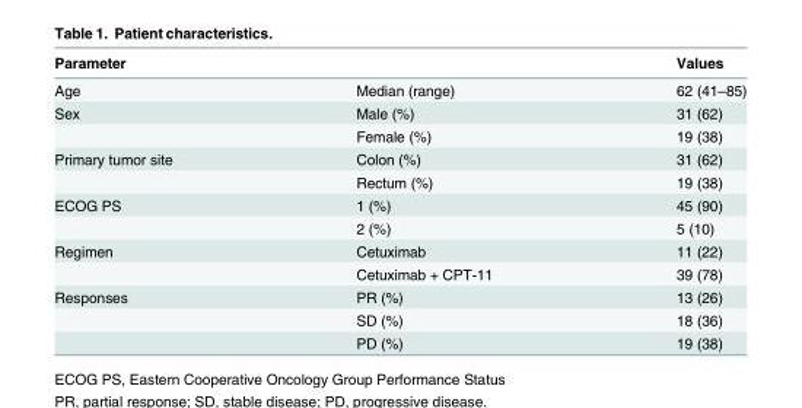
<table><thead><tr><td colspan="2">Parameter</td><td rowspan="2">Values 62 (41–85)</td></tr><tr><td>Age</td><td>Median (range)</td></tr></thead><tbody><tr><td rowspan="2">Sex</td><td>Male (%)</td><td>31 (62)</td></tr><tr><td>Female (%)</td><td>19 (38)</td></tr><tr><td rowspan="2">Primary tumor site</td><td>Colon (%)</td><td>31 (62)</td></tr><tr><td>Rectum (%)</td><td>19 (38)</td></tr><tr><td rowspan="2">ECOG PS</td><td>1 (%)</td><td>45 (90)</td></tr><tr><td>2 (%)</td><td>5 (10)</td></tr><tr><td rowspan="2">Regimen</td><td>Cetuximab</td><td>11 (22)</td></tr><tr><td>Cetuximab + CPT-11</td><td>39 (78)</td></tr><tr><td rowspan="3">Responses</td><td>PR (%)</td><td>13 (26)</td></tr><tr><td>SD (%)</td><td>18 (36)</td></tr><tr><td>PD (%)</td><td>19 (38)</td></tr></tbody></table>